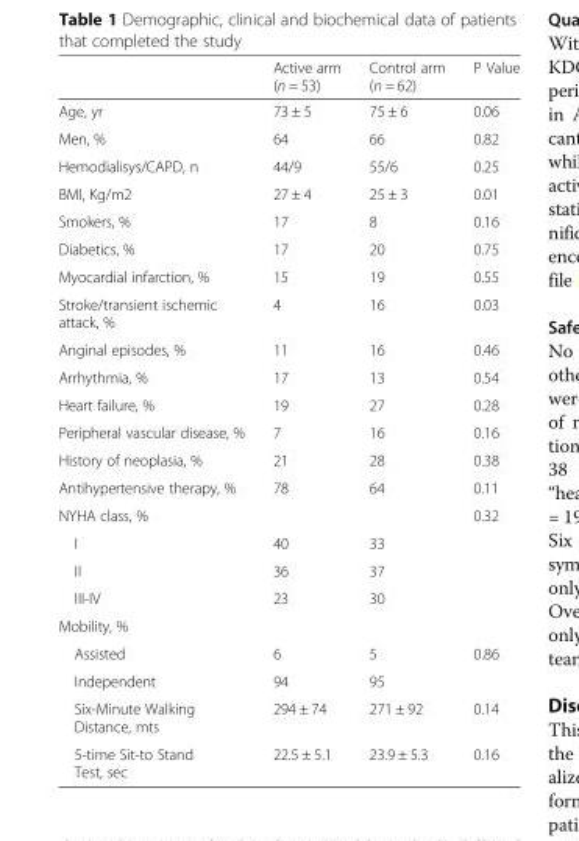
<table><thead><tr><td></td><td>Active arm (n = 53)</td><td>Control arm (n = 62)</td><td>P Value</td></tr></thead><tbody><tr><td>Age, yr</td><td>73 ± 5</td><td>75 ± 6</td><td>0.06</td></tr><tr><td>Men, %</td><td>64</td><td>66</td><td>0.82</td></tr><tr><td>Hemodialisys/CAPD, n</td><td>44/9</td><td>55/6</td><td>0.25</td></tr><tr><td>BMI, Kg/m2</td><td>27 ± 4</td><td>25 ± 3</td><td>0.01</td></tr><tr><td>Smokers, %</td><td>17</td><td>8</td><td>0.16</td></tr><tr><td>Diabetics, %</td><td>17</td><td>20</td><td>0.75</td></tr><tr><td>Myocardial infarction, %</td><td>15</td><td>19</td><td>0.55</td></tr><tr><td>Stroke/transient ischemic attack, %</td><td>4</td><td>16</td><td>0.03</td></tr><tr><td>Anginal episodes, %</td><td>11</td><td>16</td><td>0.46</td></tr><tr><td>Arrhythmia, %</td><td>17</td><td>13</td><td>0.54</td></tr><tr><td>Heart failure, %</td><td>19</td><td>27</td><td>0.28</td></tr><tr><td>Peripheral vascular disease, %</td><td>7</td><td>16</td><td>0.16</td></tr><tr><td>History of neoplasia, %</td><td>21</td><td>28</td><td>0.38</td></tr><tr><td>Antihypertensive therapy, %</td><td>78</td><td>64</td><td>0.11</td></tr><tr><td colspan="3">NYHA class, %</td><td>0.32</td></tr><tr><td>I</td><td>40</td><td>33</td><td></td></tr><tr><td>II</td><td>36</td><td>37</td><td></td></tr><tr><td>III-IV</td><td>23</td><td>30</td><td></td></tr><tr><td colspan="4">Mobility, %</td></tr><tr><td>Assisted</td><td>6</td><td>5</td><td rowspan="2">0.86</td></tr><tr><td>Independent</td><td>94</td><td>95</td></tr><tr><td>Six-Minute Walking Distance, mts</td><td>294 ± 74</td><td>271 ± 92</td><td>0.14</td></tr><tr><td>5-time Sit-to Stand Test, sec</td><td>22.5 ± 5.1</td><td>23.9 ± 5.3</td><td>0.16</td></tr></tbody></table>